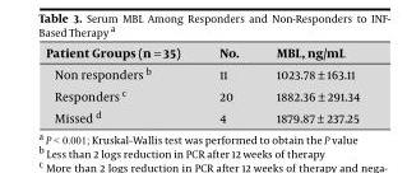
<table><thead><tr><td>Patient Groups (n = 35)</td><td>No.</td><td>MBL, ng/mL</td></tr></thead><tbody><tr><td>Non responders b</td><td>11</td><td>1023.78 ± 163.11</td></tr><tr><td>Responders c</td><td>20</td><td>1882.36 ± 291.34</td></tr><tr><td>Missed d</td><td>4</td><td>1879.87 ± 237.25</td></tr></tbody></table>